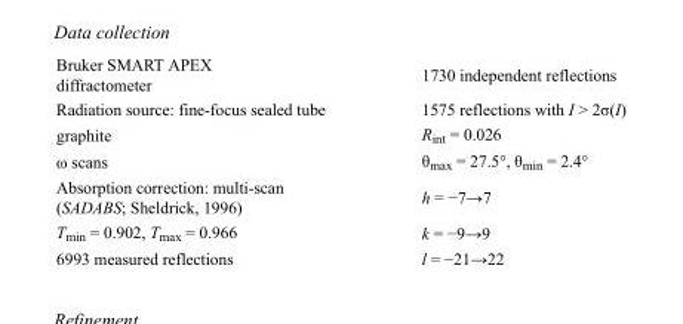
<table><tbody><tr><td>Bruker SMART APEX diffractometer</td><td>1730 independent reflections</td></tr><tr><td>Radiation source: fine-focus sealed tube</td><td>1575 reflections with I &gt; 2σ(I)</td></tr><tr><td>graphite</td><td>R<sub>int</sub> = 0.026</td></tr><tr><td>ω scans</td><td>θ<sub>max</sub> = 27.5°, θ<sub>min</sub> = 2.4°</td></tr><tr><td>Absorption correction: multi-scan (SADABS; Sheldrick, 1996)</td><td>h = −7→7</td></tr><tr><td>T<sub>min</sub> = 0.902, T<sub>max</sub> = 0.966</td><td>k = −9→9</td></tr><tr><td>6993 measured reflections</td><td>l = −21→22</td></tr></tbody></table>